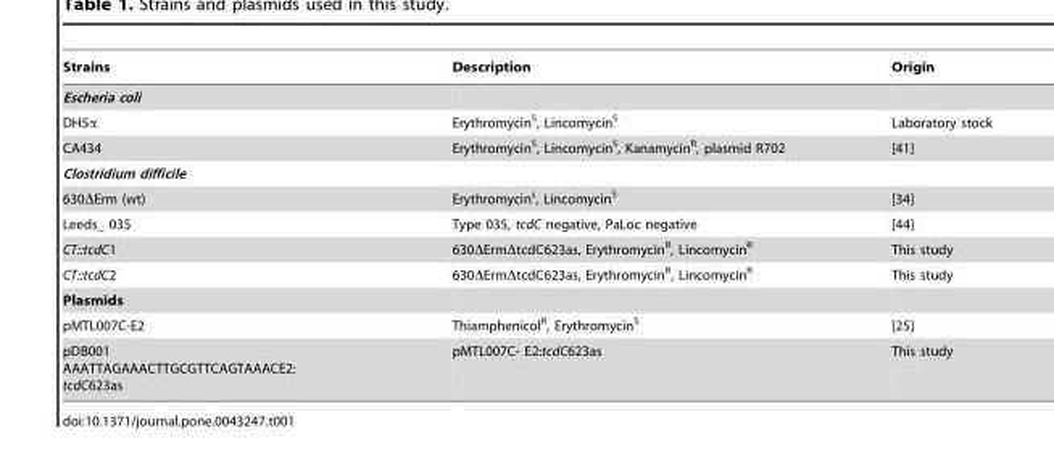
<table><thead><tr><td>Strains</td><td>Description</td><td>Origin</td></tr></thead><tbody><tr><td colspan="3">Escheria coli</td></tr><tr><td>DH5α</td><td>Erythromycin<sup>S</sup>, Lincomycin<sup>S</sup></td><td>Laboratory stock</td></tr><tr><td>CA434</td><td>Erythromycin<sup>S</sup>, Lincomycin<sup>S</sup>, Kanamycin<sup>R</sup>, plasmid R702</td><td>[41]</td></tr><tr><td colspan="3">Clostridium difficile</td></tr><tr><td>630ΔErm (wt)</td><td>Erythromycin<sup>s</sup>, Lincomycin<sup>S</sup></td><td>[34]</td></tr><tr><td>Leeds_ 035</td><td>Type 035, tcdC negative, PaLoc negative</td><td>[44]</td></tr><tr><td>CT::tcdC1</td><td>630ΔErmΔtcdC623as, Erythromycin<sup>R</sup>, Lincomycin<sup>R</sup></td><td>This study</td></tr><tr><td>CT::tcdC2</td><td>630ΔErmΔtcdC623as, Erythromycin<sup>R</sup>, Lincomycin<sup>R</sup></td><td>This study</td></tr><tr><td colspan="3">Plasmids</td></tr><tr><td>pMTL007C-E2</td><td>Thiamphenicol<sup>R</sup>, Erythromycin<sup>S</sup></td><td>[25]</td></tr><tr><td>pDB001 AAATTAGAAACTTGCGTTCAGTAAACE2: tcdC623as</td><td>pMTL007C- E2:tcdC623as</td><td>This study</td></tr></tbody></table>